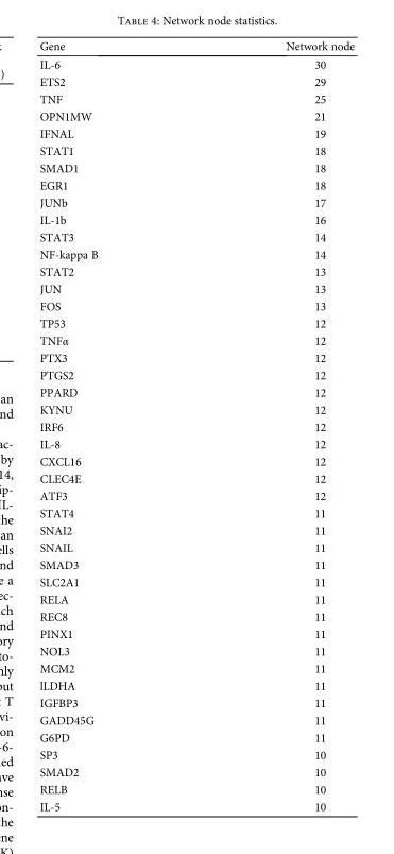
<table><thead><tr><td>Gene</td><td>Network node</td></tr></thead><tbody><tr><td>IL-6</td><td>30</td></tr><tr><td>ETS2</td><td>29</td></tr><tr><td>TNF</td><td>25</td></tr><tr><td>OPN1MW</td><td>21</td></tr><tr><td>IFNAL</td><td>19</td></tr><tr><td>STAT1</td><td>18</td></tr><tr><td>SMAD1</td><td>18</td></tr><tr><td>EGR1</td><td>18</td></tr><tr><td>JUNb</td><td>17</td></tr><tr><td>IL-1b</td><td>16</td></tr><tr><td>STAT3</td><td>14</td></tr><tr><td>NF-kappa B</td><td>14</td></tr><tr><td>STAT2</td><td>13</td></tr><tr><td>JUN</td><td>13</td></tr><tr><td>FOS</td><td>13</td></tr><tr><td>TP53</td><td>12</td></tr><tr><td>TNFα</td><td>12</td></tr><tr><td>PTX3</td><td>12</td></tr><tr><td>PTGS2</td><td>12</td></tr><tr><td>PPARD</td><td>12</td></tr><tr><td>KYNU</td><td>12</td></tr><tr><td>IRF6</td><td>12</td></tr><tr><td>IL-8</td><td>12</td></tr><tr><td>CXCL16</td><td>12</td></tr><tr><td>CLEC4E</td><td>12</td></tr><tr><td>ATF3</td><td>12</td></tr><tr><td>STAT4</td><td>11</td></tr><tr><td>SNAI2</td><td>11</td></tr><tr><td>SNAIL</td><td>11</td></tr><tr><td>SMAD3</td><td>11</td></tr><tr><td>SLC2A1</td><td>11</td></tr><tr><td>RELA</td><td>11</td></tr><tr><td>REC8</td><td>11</td></tr><tr><td>PINX1</td><td>11</td></tr><tr><td>NOL3</td><td>11</td></tr><tr><td>MCM2</td><td>11</td></tr><tr><td>lLDHA</td><td>11</td></tr><tr><td>IGFBP3</td><td>11</td></tr><tr><td>GADD45G</td><td>11</td></tr><tr><td>G6PD</td><td>11</td></tr><tr><td>SP3</td><td>10</td></tr><tr><td>SMAD2</td><td>10</td></tr><tr><td>RELB</td><td>10</td></tr><tr><td>IL-5</td><td>10</td></tr></tbody></table>